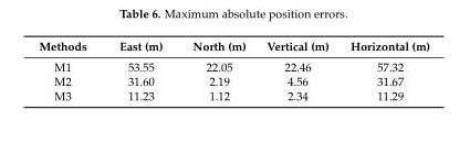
<table><thead><tr><td>Methods</td><td>East (m)</td><td>North (m)</td><td>Vertical (m)</td><td>Horizontal (m)</td></tr></thead><tbody><tr><td>M1</td><td>53.55</td><td>22.05</td><td>22.46</td><td>57.32</td></tr><tr><td>M2</td><td>31.60</td><td>2.19</td><td>4.56</td><td>31.67</td></tr><tr><td>M3</td><td>11.23</td><td>1.12</td><td>2.34</td><td>11.29</td></tr></tbody></table>